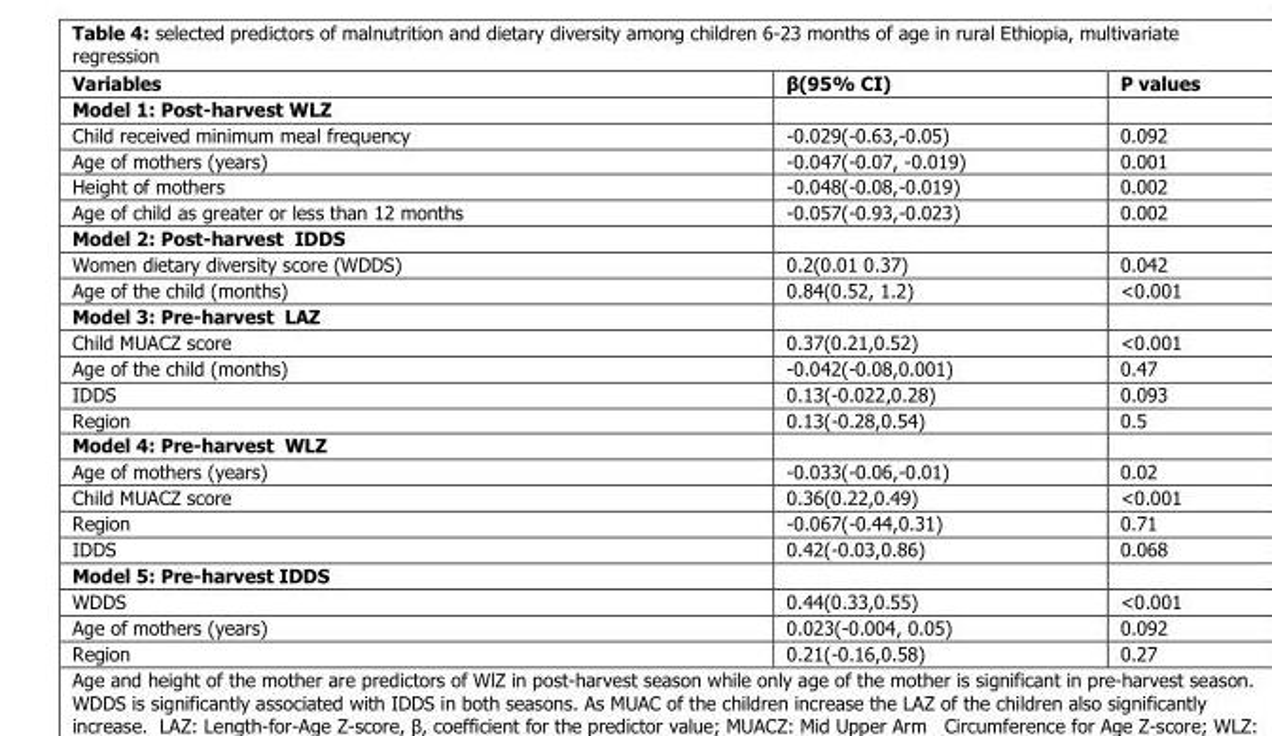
<table><thead><tr><td>Variables</td><td>β(95% CI)</td><td>P values</td></tr></thead><tbody><tr><td colspan="3">Model 1: Post-harvest WLZ</td></tr><tr><td>Child received minimum meal frequency</td><td>-0.029(-0.63,-0.05)</td><td>0.092</td></tr><tr><td>Age of mothers (years)</td><td>-0.047(-0.07, -0.019)</td><td>0.001</td></tr><tr><td>Height of mothers</td><td>-0.048(-0.08,-0.019)</td><td>0.002</td></tr><tr><td>Age of child as greater or less than 12 months</td><td>-0.057(-0.93,-0.023)</td><td>0.002</td></tr><tr><td colspan="3">Model 2: Post-harvest IDDS</td></tr><tr><td>Women dietary diversity score (WDDS)</td><td>0.2(0.01 0.37)</td><td>0.042</td></tr><tr><td>Age of the child (months)</td><td>0.84(0.52, 1.2)</td><td>&lt;0.001</td></tr><tr><td colspan="3">Model 3: Pre-harvest LAZ</td></tr><tr><td>Child MUACZ score</td><td>0.37(0.21,0.52)</td><td>&lt;0.001</td></tr><tr><td>Age of the child (months)</td><td>-0.042(-0.08,0.001)</td><td>0.47</td></tr><tr><td>IDDS</td><td>0.13(-0.022,0.28)</td><td>0.093</td></tr><tr><td>Region</td><td>0.13(-0.28,0.54)</td><td>0.5</td></tr><tr><td colspan="3">Model 4: Pre-harvest WLZ</td></tr><tr><td>Age of mothers (years)</td><td>-0.033(-0.06,-0.01)</td><td>0.02</td></tr><tr><td>Child MUACZ score</td><td>0.36(0.22,0.49)</td><td>&lt;0.001</td></tr><tr><td>Region</td><td>-0.067(-0.44,0.31)</td><td>0.71</td></tr><tr><td>IDDS</td><td>0.42(-0.03,0.86)</td><td>0.068</td></tr><tr><td colspan="3">Model 5: Pre-harvest IDDS</td></tr><tr><td>WDDS</td><td>0.44(0.33,0.55)</td><td>&lt;0.001</td></tr><tr><td>Age of mothers (years)</td><td>0.023(-0.004, 0.05)</td><td>0.092</td></tr><tr><td>Region</td><td>0.21(-0.16,0.58)</td><td>0.27</td></tr></tbody></table>